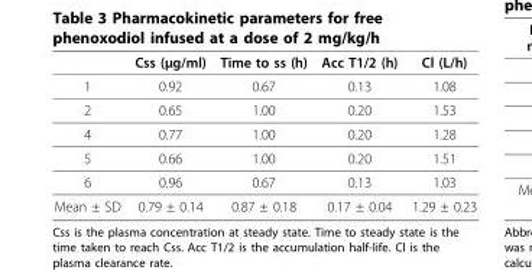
<table><thead><tr><td></td><td>Css (μg/ml)</td><td>Time to ss (h)</td><td>Acc T1/2 (h)</td><td>Cl (L/h)</td></tr></thead><tbody><tr><td>1</td><td>0.92</td><td>0.67</td><td>0.13</td><td>1.08</td></tr><tr><td>2</td><td>0.65</td><td>1.00</td><td>0.20</td><td>1.53</td></tr><tr><td>4</td><td>0.77</td><td>1.00</td><td>0.20</td><td>1.28</td></tr><tr><td>5</td><td>0.66</td><td>1.00</td><td>0.20</td><td>1.51</td></tr><tr><td>6</td><td>0.96</td><td>0.67</td><td>0.13</td><td>1.03</td></tr><tr><td>Mean ± SD</td><td>0.79 ± 0.14</td><td>0.87 ± 0.18</td><td>0.17 ± 0.04</td><td>1.29 ± 0.23</td></tr></tbody></table>